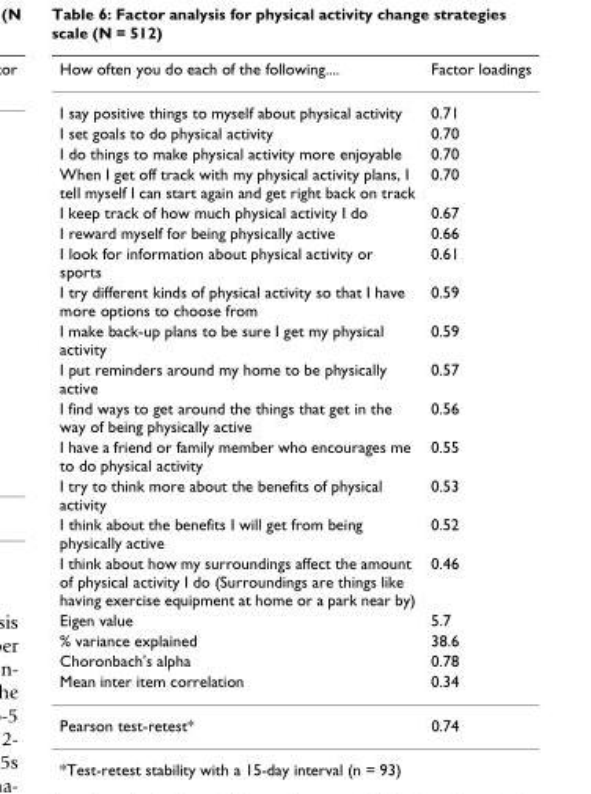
<table><thead><tr><td>How often you do each of the following....</td><td>Factor loadings</td></tr></thead><tbody><tr><td>I say positive things to myself about physical activity</td><td>0.71</td></tr><tr><td>I set goals to do physical activity</td><td>0.70</td></tr><tr><td>I do things to make physical activity more enjoyable</td><td>0.70</td></tr><tr><td>When I get off track with my physical activity plans, I tell myself I can start again and get right back on track</td><td>0.70</td></tr><tr><td>I keep track of how much physical activity I do</td><td>0.67</td></tr><tr><td>I reward myself for being physically active</td><td>0.66</td></tr><tr><td>I look for information about physical activity or sports</td><td>0.61</td></tr><tr><td>I try different kinds of physical activity so that I have more options to choose from</td><td>0.59</td></tr><tr><td>I make back-up plans to be sure I get my physical activity</td><td>0.59</td></tr><tr><td>I put reminders around my home to be physically active</td><td>0.57</td></tr><tr><td>I find ways to get around the things that get in the way of being physically active</td><td>0.56</td></tr><tr><td>I have a friend or family member who encourages me to do physical activity</td><td>0.55</td></tr><tr><td>I try to think more about the benefits of physical activity</td><td>0.53</td></tr><tr><td>I think about the benefits I will get from being physically active</td><td>0.52</td></tr><tr><td>I think about how my surroundings affect the amount of physical activity I do (Surroundings are things like having exercise equipment at home or a park near by)</td><td>0.46</td></tr><tr><td>Eigen value</td><td>5.7</td></tr><tr><td>% variance explained</td><td>38.6</td></tr><tr><td>Choronbach&#x27;s alpha</td><td>0.78</td></tr><tr><td>Mean inter item correlation</td><td>0.34</td></tr><tr><td>Pearson test-retest*</td><td>0.74</td></tr></tbody></table>